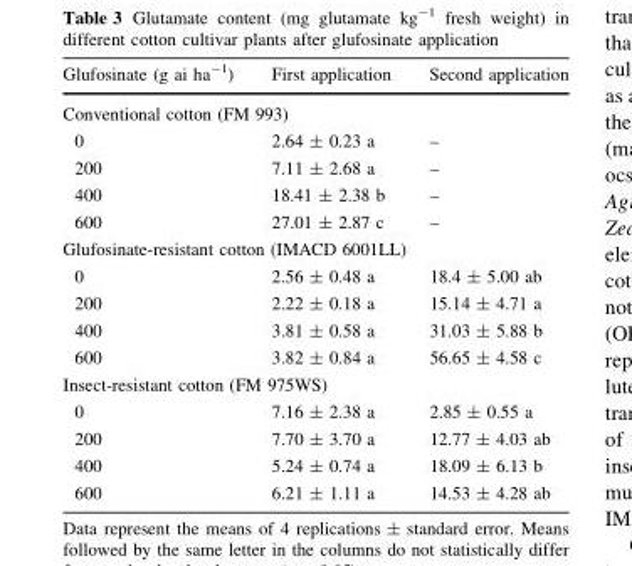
<table><thead><tr><td>Glufosinate (g ai ha<sup>-1</sup>)</td><td>First application</td><td>Second application</td></tr></thead><tbody><tr><td colspan="3">Conventional cotton (FM 993)</td></tr><tr><td>0</td><td>2.64 ± 0.23 a</td><td>–</td></tr><tr><td>200</td><td>7.11 ± 2.68 a</td><td>–</td></tr><tr><td>400</td><td>18.41 ± 2.38 b</td><td>–</td></tr><tr><td>600</td><td>27.01 ± 2.87 c</td><td>–</td></tr><tr><td colspan="3">Glufosinate-resistant cotton (IMACD 6001LL)</td></tr><tr><td>0</td><td>2.56 ± 0.48 a</td><td>18.4 ± 5.00 ab</td></tr><tr><td>200</td><td>2.22 ± 0.18 a</td><td>15.14 ± 4.71 a</td></tr><tr><td>400</td><td>3.81 ± 0.58 a</td><td>31.03 ± 5.88 b</td></tr><tr><td>600</td><td>3.82 ± 0.84 a</td><td>56.65 ± 4.58 c</td></tr><tr><td colspan="3">Insect-resistant cotton (FM 975WS)</td></tr><tr><td>0</td><td>7.16 ± 2.38 a</td><td>2.85 ± 0.55 a</td></tr><tr><td>200</td><td>7.70 ± 3.70 a</td><td>12.77 ± 4.03 ab</td></tr><tr><td>400</td><td>5.24 ± 0.74 a</td><td>18.09 ± 6.13 b</td></tr><tr><td>600</td><td>6.21 ± 1.11 a</td><td>14.53 ± 4.28 ab</td></tr></tbody></table>